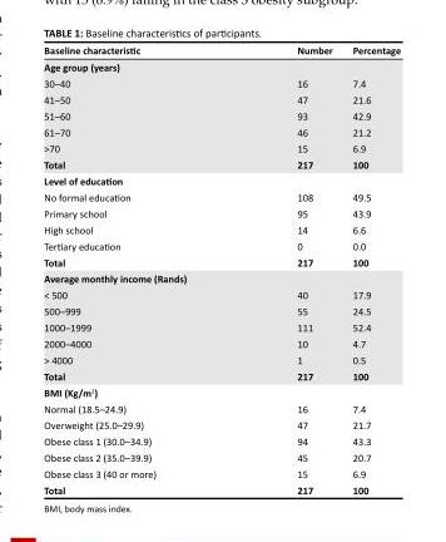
<table><thead><tr><td>Baseline characteristic</td><td>Number</td><td>Percentage</td></tr></thead><tbody><tr><td colspan="3">Age group (years)</td></tr><tr><td>30–40</td><td>16</td><td>7.4</td></tr><tr><td>41–50</td><td>47</td><td>21.6</td></tr><tr><td>51–60</td><td>93</td><td>42.9</td></tr><tr><td>61–70</td><td>46</td><td>21.2</td></tr><tr><td>&gt;70</td><td>15</td><td>6.9</td></tr><tr><td>Total</td><td>217</td><td>100</td></tr><tr><td colspan="3">Level of education</td></tr><tr><td>No formal education</td><td>108</td><td>49.5</td></tr><tr><td>Primary school</td><td>95</td><td>43.9</td></tr><tr><td>High school</td><td>14</td><td>6.6</td></tr><tr><td>Tertiary education</td><td>0</td><td>0.0</td></tr><tr><td>Total</td><td>217</td><td>100</td></tr><tr><td colspan="3">Average monthly income (Rands)</td></tr><tr><td>&lt; 500</td><td>40</td><td>17.9</td></tr><tr><td>500–999</td><td>55</td><td>24.5</td></tr><tr><td>1000–1999</td><td>111</td><td>52.4</td></tr><tr><td>2000–4000</td><td>10</td><td>4.7</td></tr><tr><td>&gt; 4000</td><td>1</td><td>0.5</td></tr><tr><td>Total</td><td>217</td><td>100</td></tr><tr><td colspan="3">BMI (Kg/m<sup>2</sup>)</td></tr><tr><td>Normal (18.5–24.9)</td><td>16</td><td>7.4</td></tr><tr><td>Overweight (25.0–29.9)</td><td>47</td><td>21.7</td></tr><tr><td>Obese class 1 (30.0–34.9)</td><td>94</td><td>43.3</td></tr><tr><td>Obese class 2 (35.0–39.9)</td><td>45</td><td>20.7</td></tr><tr><td>Obese class 3 (40 or more)</td><td>15</td><td>6.9</td></tr><tr><td>Total</td><td>217</td><td>100</td></tr></tbody></table>